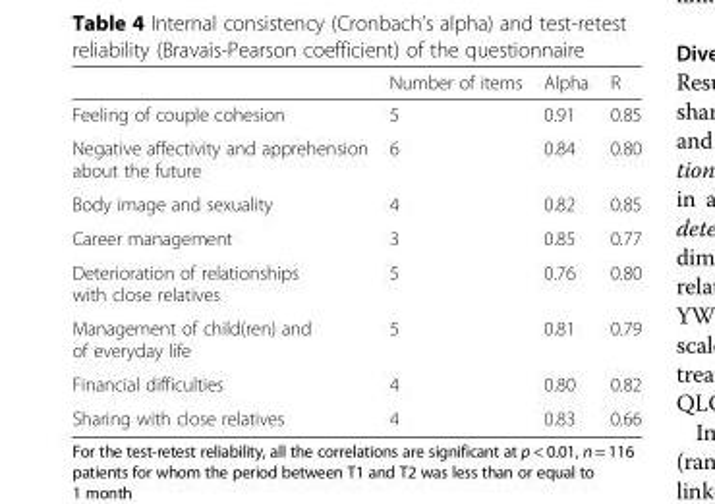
<table><thead><tr><td></td><td>Number of items</td><td>Alpha</td><td>R</td></tr></thead><tbody><tr><td>Feeling of couple cohesion</td><td>5</td><td>0.91</td><td>0.85</td></tr><tr><td>Negative affectivity and apprehension about the future</td><td>6</td><td>0.84</td><td>0.80</td></tr><tr><td>Body image and sexuality</td><td>4</td><td>0.82</td><td>0.85</td></tr><tr><td>Career management</td><td>3</td><td>0.85</td><td>0.77</td></tr><tr><td>Deterioration of relationships with close relatives</td><td>5</td><td>0.76</td><td>0.80</td></tr><tr><td>Management of child(ren) and of everyday life</td><td>5</td><td>0.81</td><td>0.79</td></tr><tr><td>Financial difficulties</td><td>4</td><td>0.80</td><td>0.82</td></tr><tr><td>Sharing with close relatives</td><td>4</td><td>0.83</td><td>0.66</td></tr></tbody></table>